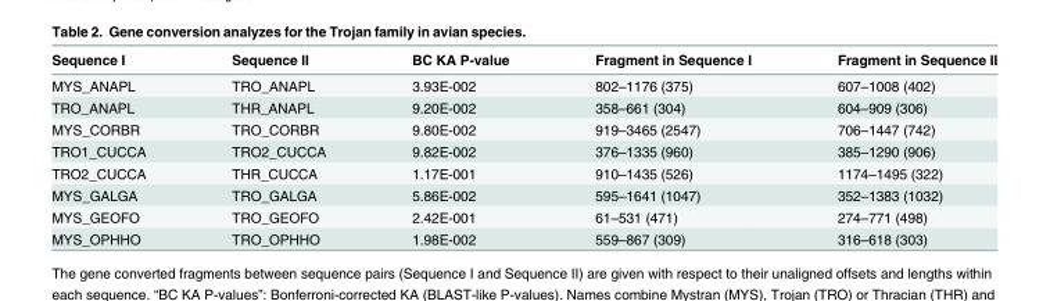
<table><thead><tr><td>Sequence I</td><td>Sequence II</td><td>BC KA P-value</td><td>Fragment in Sequence I</td><td>Fragment in Sequence II</td></tr></thead><tbody><tr><td>MYS_ANAPL</td><td>TRO_ANAPL</td><td>3.93E-002</td><td>802–1176 (375)</td><td>607–1008 (402)</td></tr><tr><td>TRO_ANAPL</td><td>THR_ANAPL</td><td>9.20E-002</td><td>358–661 (304)</td><td>604–909 (306)</td></tr><tr><td>MYS_CORBR</td><td>TRO_CORBR</td><td>9.80E-002</td><td>919–3465 (2547)</td><td>706–1447 (742)</td></tr><tr><td>TRO1_CUCCA</td><td>TRO2_CUCCA</td><td>9.82E-002</td><td>376–1335 (960)</td><td>385–1290 (906)</td></tr><tr><td>TRO2_CUCCA</td><td>THR_CUCCA</td><td>1.17E-001</td><td>910–1435 (526)</td><td>1174–1495 (322)</td></tr><tr><td>MYS_GALGA</td><td>TRO_GALGA</td><td>5.86E-002</td><td>595–1641 (1047)</td><td>352–1383 (1032)</td></tr><tr><td>MYS_GEOFO</td><td>TRO_GEOFO</td><td>2.42E-001</td><td>61–531 (471)</td><td>274–771 (498)</td></tr><tr><td>MYS_OPHHO</td><td>TRO_OPHHO</td><td>1.98E-002</td><td>559–867 (309)</td><td>316–618 (303)</td></tr></tbody></table>